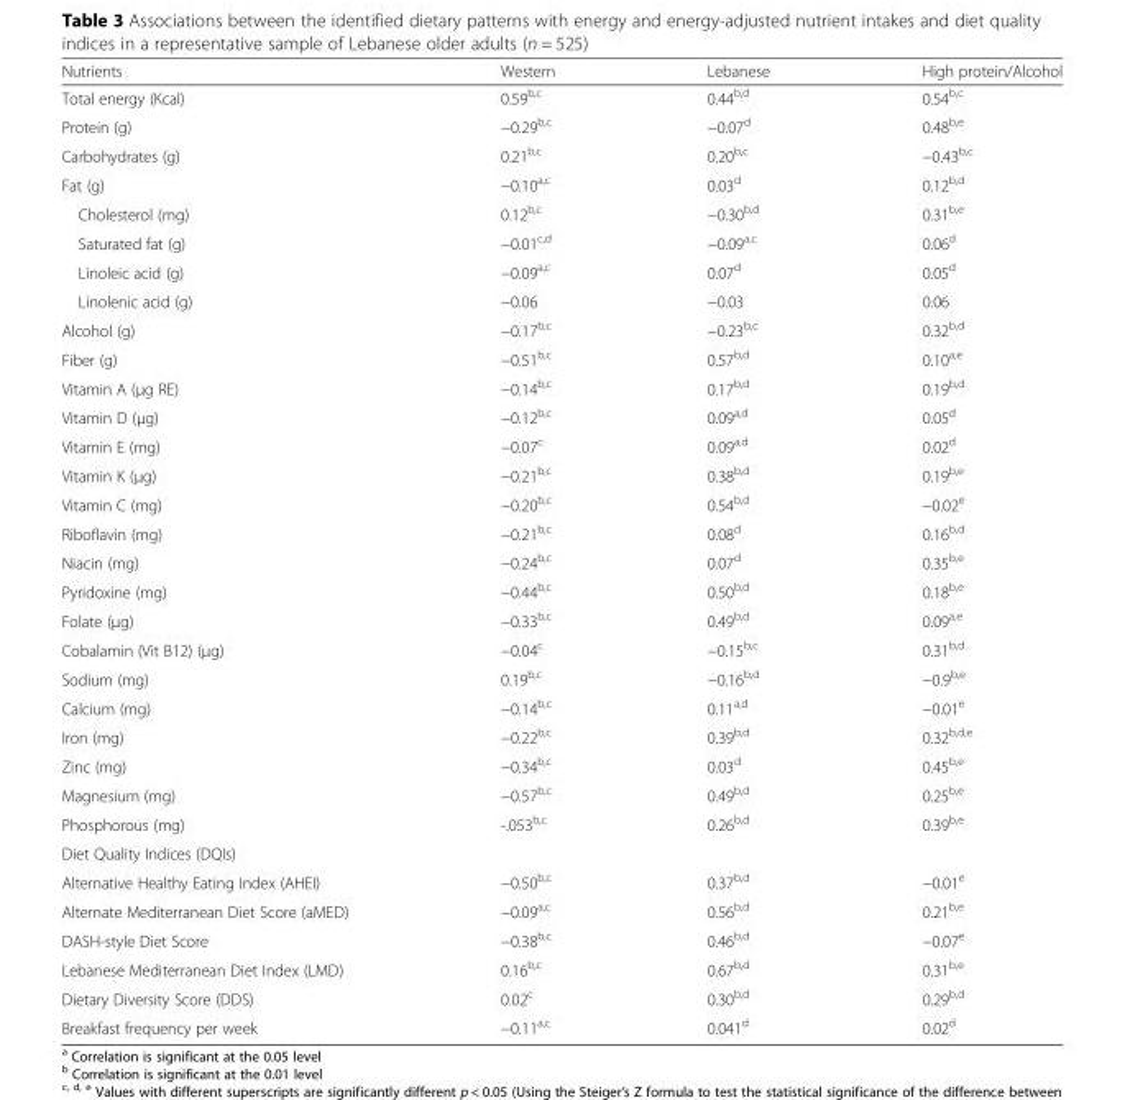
<table><thead><tr><td>Nutrients</td><td>Western</td><td>Lebanese</td><td>High protein/Alcohol</td></tr></thead><tbody><tr><td>Total energy (Kcal)</td><td>0.59<sup>b,c</sup></td><td>0.44<sup>b,d</sup></td><td>0.54<sup>b,c</sup></td></tr><tr><td>Protein (g)</td><td>−0.29<sup>b,c</sup></td><td>−0.07<sup>d</sup></td><td>0.48<sup>b,e</sup></td></tr><tr><td>Carbohydrates (g)</td><td>0.21<sup>b,c</sup></td><td>0.20<sup>b,c</sup></td><td>−0.43<sup>b,c</sup></td></tr><tr><td>Fat (g)</td><td>−0.10<sup>a,c</sup></td><td>0.03<sup>d</sup></td><td>0.12<sup>b,d</sup></td></tr><tr><td>Cholesterol (mg)</td><td>0.12<sup>b,c</sup></td><td>−0.30<sup>b,d</sup></td><td>0.31<sup>b,e</sup></td></tr><tr><td>Saturated fat (g)</td><td>−0.01<sup>c,d</sup></td><td>−0.09<sup>a,c</sup></td><td>0.06<sup>d</sup></td></tr><tr><td>Linoleic acid (g)</td><td>−0.09<sup>a,c</sup></td><td>0.07<sup>d</sup></td><td>0.05<sup>d</sup></td></tr><tr><td>Linolenic acid (g)</td><td>−0.06</td><td>−0.03</td><td>0.06</td></tr><tr><td>Alcohol (g)</td><td>−0.17<sup>b,c</sup></td><td>−0.23<sup>b,c</sup></td><td>0.32<sup>b,d</sup></td></tr><tr><td>Fiber (g)</td><td>−0.51<sup>b,c</sup></td><td>0.57<sup>b,d</sup></td><td>0.10<sup>a,e</sup></td></tr><tr><td>Vitamin A (μg RE)</td><td>−0.14<sup>b,c</sup></td><td>0.17<sup>b,d</sup></td><td>0.19<sup>b,d</sup></td></tr><tr><td>Vitamin D (μg)</td><td>−0.12<sup>b,c</sup></td><td>0.09<sup>a,d</sup></td><td>0.05<sup>d</sup></td></tr><tr><td>Vitamin E (mg)</td><td>−0.07<sup>c</sup></td><td>0.09<sup>a,d</sup></td><td>0.02<sup>d</sup></td></tr><tr><td>Vitamin K (μg)</td><td>−0.21<sup>b,c</sup></td><td>0.38<sup>b,d</sup></td><td>0.19<sup>b,e</sup></td></tr><tr><td>Vitamin C (mg)</td><td>−0.20<sup>b,c</sup></td><td>0.54<sup>b,d</sup></td><td>−0.02<sup>e</sup></td></tr><tr><td>Riboflavin (mg)</td><td>−0.21<sup>b,c</sup></td><td>0.08<sup>d</sup></td><td>0.16<sup>b,d</sup></td></tr><tr><td>Niacin (mg)</td><td>−0.24<sup>b,c</sup></td><td>0.07<sup>d</sup></td><td>0.35<sup>b,e</sup></td></tr><tr><td>Pyridoxine (mg)</td><td>−0.44<sup>b,c</sup></td><td>0.50<sup>b,d</sup></td><td>0.18<sup>b,e</sup></td></tr><tr><td>Folate (μg)</td><td>−0.33<sup>b,c</sup></td><td>0.49<sup>b,d</sup></td><td>0.09<sup>a,e</sup></td></tr><tr><td>Cobalamin (Vit B12) (μg)</td><td>−0.04<sup>c</sup></td><td>−0.15<sup>b,c</sup></td><td>0.31<sup>b,d</sup></td></tr><tr><td>Sodium (mg)</td><td>0.19<sup>b,c</sup></td><td>−0.16<sup>b,d</sup></td><td>−0.9<sup>b,e</sup></td></tr><tr><td>Calcium (mg)</td><td>−0.14<sup>b,c</sup></td><td>0.11<sup>a,d</sup></td><td>−0.01<sup>e</sup></td></tr><tr><td>Iron (mg)</td><td>−0.22<sup>b,c</sup></td><td>0.39<sup>b,d</sup></td><td>0.32<sup>b,d,e</sup></td></tr><tr><td>Zinc (mg)</td><td>−0.34<sup>b,c</sup></td><td>0.03<sup>d</sup></td><td>0.45<sup>b,e</sup></td></tr><tr><td>Magnesium (mg)</td><td>−0.57<sup>b,c</sup></td><td>0.49<sup>b,d</sup></td><td>0.25<sup>b,e</sup></td></tr><tr><td>Phosphorous (mg)</td><td>-.053<sup>b,c</sup></td><td>0.26<sup>b,d</sup></td><td>0.39<sup>b,e</sup></td></tr><tr><td colspan="4">Diet Quality Indices (DQIs)</td></tr><tr><td>Alternative Healthy Eating Index (AHEI)</td><td>−0.50<sup>b,c</sup></td><td>0.37<sup>b,d</sup></td><td>−0.01<sup>e</sup></td></tr><tr><td>Alternate Mediterranean Diet Score (aMED)</td><td>−0.09<sup>a,c</sup></td><td>0.56<sup>b,d</sup></td><td>0.21<sup>b,e</sup></td></tr><tr><td>DASH-style Diet Score</td><td>−0.38<sup>b,c</sup></td><td>0.46<sup>b,d</sup></td><td>−0.07<sup>e</sup></td></tr><tr><td>Lebanese Mediterranean Diet Index (LMD)</td><td>0.16<sup>b,c</sup></td><td>0.67<sup>b,d</sup></td><td>0.31<sup>b,e</sup></td></tr><tr><td>Dietary Diversity Score (DDS)</td><td>0.02<sup>c</sup></td><td>0.30<sup>b,d</sup></td><td>0.29<sup>b,d</sup></td></tr><tr><td>Breakfast frequency per week</td><td>−0.11<sup>a,c</sup></td><td>0.041<sup>d</sup></td><td>0.02<sup>d</sup></td></tr></tbody></table>